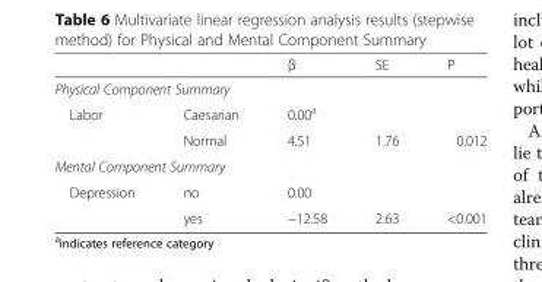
<table><thead><tr><td></td><td></td><td>β</td><td>SE</td><td>P</td></tr></thead><tbody><tr><td colspan="5">Physical Component Summary</td></tr><tr><td rowspan="2">Labor</td><td>Caesarian</td><td>0.00<sup>a</sup></td><td></td><td></td></tr><tr><td>Normal</td><td>4.51</td><td>1.76</td><td>0.012</td></tr><tr><td colspan="5">Mental Component Summary</td></tr><tr><td rowspan="2">Depression</td><td>no</td><td>0.00</td><td></td><td></td></tr><tr><td>yes</td><td>−12.58</td><td>2.63</td><td>&lt;0.001</td></tr></tbody></table>